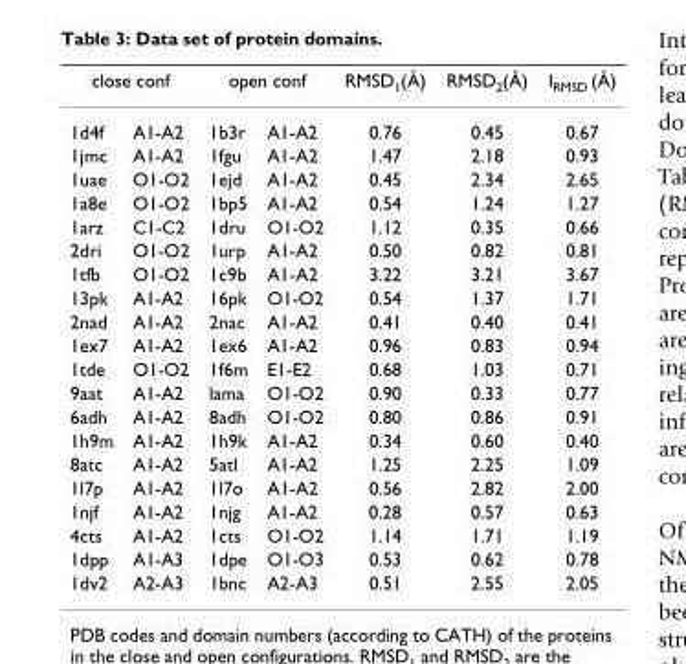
<table><thead><tr><td colspan="2">close conf</td><td colspan="2">open conf</td><td rowspan="2">RMSD1(Å) 0.76</td><td rowspan="2">RMSD2(Å) 0.45</td><td rowspan="2">IRMSD (Å) 0.67</td></tr><tr><td>1d4f</td><td>A1-A2</td><td>1b3r</td><td>A1-A2</td></tr></thead><tbody><tr><td>1jmc</td><td>A1-A2</td><td>1fgu</td><td>A1-A2</td><td>1.47</td><td>2.18</td><td>0.93</td></tr><tr><td>1uae</td><td>O1-O2</td><td>1ejd</td><td>A1-A2</td><td>0.45</td><td>2.34</td><td>2.65</td></tr><tr><td>1a8e</td><td>O1-O2</td><td>1bp5</td><td>A1-A2</td><td>0.54</td><td>1.24</td><td>1.27</td></tr><tr><td>1arz</td><td>C1-C2</td><td>1dru</td><td>O1-O2</td><td>1.12</td><td>0.35</td><td>0.66</td></tr><tr><td>2dri</td><td>O1-O2</td><td>1urp</td><td>A1-A2</td><td>0.50</td><td>0.82</td><td>0.81</td></tr><tr><td>1tfb</td><td>O1-O2</td><td>1c9b</td><td>A1-A2</td><td>3.22</td><td>3.21</td><td>3.67</td></tr><tr><td>13pk</td><td>A1-A2</td><td>16pk</td><td>O1-O2</td><td>0.54</td><td>1.37</td><td>1.71</td></tr><tr><td>2nad</td><td>A1-A2</td><td>2nac</td><td>A1-A2</td><td>0.41</td><td>0.40</td><td>0.41</td></tr><tr><td>1ex7</td><td>A1-A2</td><td>1ex6</td><td>A1-A2</td><td>0.96</td><td>0.83</td><td>0.94</td></tr><tr><td>1tde</td><td>O1-O2</td><td>1f6m</td><td>E1-E2</td><td>0.68</td><td>1.03</td><td>0.71</td></tr><tr><td>9aat</td><td>A1-A2</td><td>lama</td><td>O1-O2</td><td>0.90</td><td>0.33</td><td>0.77</td></tr><tr><td>6adh</td><td>A1-A2</td><td>8adh</td><td>O1-O2</td><td>0.80</td><td>0.86</td><td>0.91</td></tr><tr><td>1h9m</td><td>A1-A2</td><td>1h9k</td><td>A1-A2</td><td>0.34</td><td>0.60</td><td>0.40</td></tr><tr><td>8atc</td><td>A1-A2</td><td>5atl</td><td>A1-A2</td><td>1.25</td><td>2.25</td><td>1.09</td></tr><tr><td>1l7p</td><td>A1-A2</td><td>1l7o</td><td>A1-A2</td><td>0.56</td><td>2.82</td><td>2.00</td></tr><tr><td>1njf</td><td>A1-A2</td><td>1njg</td><td>A1-A2</td><td>0.28</td><td>0.57</td><td>0.63</td></tr><tr><td>4cts</td><td>A1-A2</td><td>1cts</td><td>O1-O2</td><td>1.14</td><td>1.71</td><td>1.19</td></tr><tr><td>1dpp</td><td>A1-A3</td><td>1dpe</td><td>O1-O3</td><td>0.53</td><td>0.62</td><td>0.78</td></tr><tr><td>1dv2</td><td>A2-A3</td><td>1bnc</td><td>A2-A3</td><td>0.51</td><td>2.55</td><td>2.05</td></tr></tbody></table>